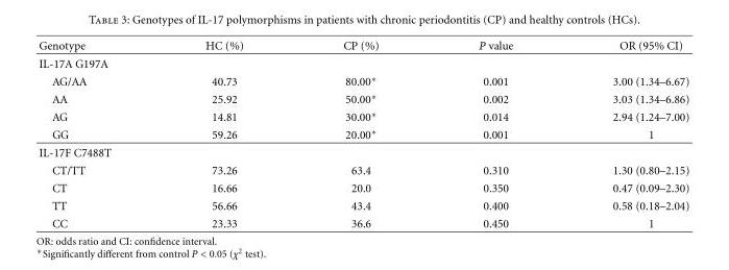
<table><thead><tr><td>Genotype</td><td>HC (%)</td><td>CP (%)</td><td>P value</td><td>OR (95% CI)</td></tr></thead><tbody><tr><td colspan="5">IL-17A G197A</td></tr><tr><td>AG/AA</td><td>40.73</td><td>80.00∗</td><td>0.001</td><td>3.00 (1.34–6.67)</td></tr><tr><td>AA</td><td>25.92</td><td>50.00∗</td><td>0.002</td><td>3.03 (1.34–6.86)</td></tr><tr><td>AG</td><td>14.81</td><td>30.00∗</td><td>0.014</td><td>2.94 (1.24–7.00)</td></tr><tr><td>GG</td><td>59.26</td><td>20.00∗</td><td>0.001</td><td>1</td></tr><tr><td colspan="5">IL-17F C7488T</td></tr><tr><td>CT/TT</td><td>73.26</td><td>63.4</td><td>0.310</td><td>1.30 (0.80–2.15)</td></tr><tr><td>CT</td><td>16.66</td><td>20.0</td><td>0.350</td><td>0.47 (0.09–2.30)</td></tr><tr><td>TT</td><td>56.66</td><td>43.4</td><td>0.400</td><td>0.58 (0.18–2.04)</td></tr><tr><td>CC</td><td>23.33</td><td>36.6</td><td>0.450</td><td>1</td></tr></tbody></table>